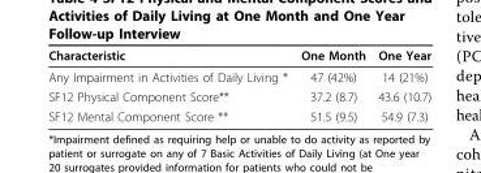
<table><thead><tr><td>Characteristic</td><td>One Month</td><td>One Year</td></tr></thead><tbody><tr><td>Any Impairment in Activities of Daily Living *</td><td>47 (42%)</td><td>14 (21%)</td></tr><tr><td>SF12 Physical Component Score**</td><td>37.2 (8.7)</td><td>43.6 (10.7)</td></tr><tr><td>SF12 Mental Component Score **</td><td>51.5 (9.5)</td><td>54.9 (7.3)</td></tr></tbody></table>